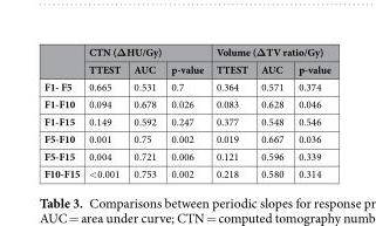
<table><thead><tr><td rowspan="2"></td><td colspan="3">CTN (ΔHU/Gy)</td><td colspan="3">Volume (ΔTV ratio/Gy)</td></tr><tr><td>TTEST</td><td>AUC</td><td>p-value</td><td>TTEST</td><td>AUC</td><td>p-value</td></tr></thead><tbody><tr><td>F1- F5</td><td>0.665</td><td>0.531</td><td>0.7</td><td>0.364</td><td>0.571</td><td>0.374</td></tr><tr><td>F1-F10</td><td>0.094</td><td>0.678</td><td>0.026</td><td>0.083</td><td>0.628</td><td>0.046</td></tr><tr><td>F1-F15</td><td>0.149</td><td>0.592</td><td>0.247</td><td>0.377</td><td>0.548</td><td>0.546</td></tr><tr><td>F5-F10</td><td>0.001</td><td>0.75</td><td>0.002</td><td>0.019</td><td>0.667</td><td>0.036</td></tr><tr><td>F5-F15</td><td>0.004</td><td>0.721</td><td>0.006</td><td>0.121</td><td>0.596</td><td>0.339</td></tr><tr><td>F10-F15</td><td>&lt;0.001</td><td>0.753</td><td>0.002</td><td>0.218</td><td>0.580</td><td>0.314</td></tr></tbody></table>